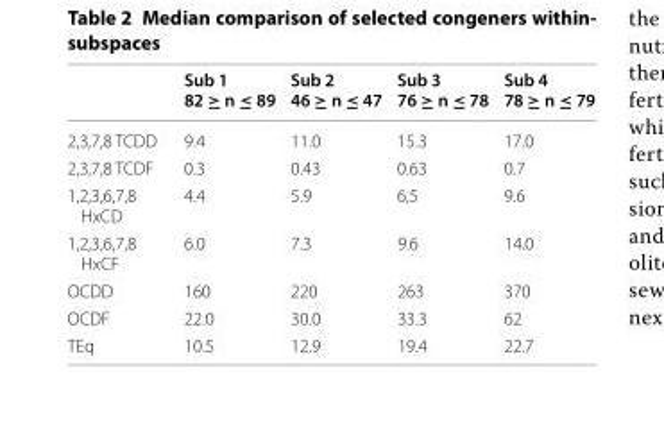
<table><thead><tr><td></td><td>Sub 1 82 ≥ n ≤ 89</td><td>Sub 2 46 ≥ n ≤ 47</td><td>Sub 3 76 ≥ n ≤ 78</td><td>Sub 4 78 ≥ n ≤ 79</td></tr></thead><tbody><tr><td>2,3,7,8 TCDD</td><td>9.4</td><td>11.0</td><td>15.3</td><td>17.0</td></tr><tr><td>2,3,7,8 TCDF</td><td>0.3</td><td>0.43</td><td>0.63</td><td>0.7</td></tr><tr><td>1,2,3,6,7,8 HxCD</td><td>4.4</td><td>5.9</td><td>6,5</td><td>9.6</td></tr><tr><td>1,2,3,6,7,8 HxCF</td><td>6.0</td><td>7.3</td><td>9.6</td><td>14.0</td></tr><tr><td>OCDD</td><td>160</td><td>220</td><td>263</td><td>370</td></tr><tr><td>OCDF</td><td>22.0</td><td>30.0</td><td>33.3</td><td>62</td></tr><tr><td>TEq</td><td>10.5</td><td>12.9</td><td>19.4</td><td>22.7</td></tr></tbody></table>